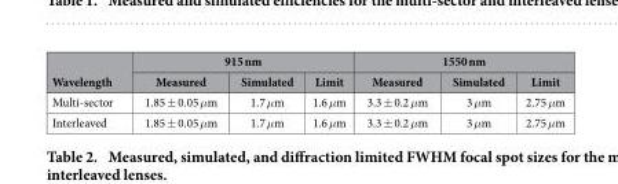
<table><thead><tr><td rowspan="2">Wavelength</td><td colspan="3">915 nm</td><td colspan="3">1550 nm</td></tr><tr><td>Measured</td><td>Simulated</td><td>Limit</td><td>Measured</td><td>Simulated</td><td>Limit</td></tr></thead><tbody><tr><td>Multi-sector</td><td>1.85 ± 0.05 μm</td><td>1.7 μm</td><td>1.6 μm</td><td>3.3 ± 0.2 μm</td><td>3 μm</td><td>2.75 μm</td></tr><tr><td>Interleaved</td><td>1.85 ± 0.05 μm</td><td>1.7 μm</td><td>1.6 μm</td><td>3.3 ± 0.2 μm</td><td>3 μm</td><td>2.75 μm</td></tr></tbody></table>